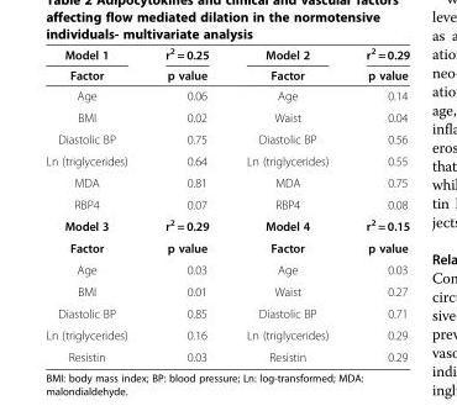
<table><thead><tr><td rowspan="2">Model 1 Factor</td><td rowspan="2">r<sup>2</sup> = 0.25 p value</td><td rowspan="2">Model 2 Factor</td><td rowspan="2">r<sup>2</sup> = 0.29 p value</td></tr><tr></tr></thead><tbody><tr><td>Age</td><td>0.06</td><td>Age</td><td>0.14</td></tr><tr><td>BMI</td><td>0.02</td><td>Waist</td><td>0.04</td></tr><tr><td>Diastolic BP</td><td>0.75</td><td>Diastolic BP</td><td>0.56</td></tr><tr><td>Ln (triglycerides)</td><td>0.64</td><td>Ln (triglycerides)</td><td>0.55</td></tr><tr><td>MDA</td><td>0.81</td><td>MDA</td><td>0.75</td></tr><tr><td>RBP4</td><td>0.07</td><td>RBP4</td><td>0.08</td></tr><tr><td>Model 3</td><td>r<sup>2</sup> = 0.29</td><td>Model 4</td><td>r<sup>2</sup> = 0.15</td></tr><tr><td>Factor</td><td>p value</td><td>Factor</td><td>p value</td></tr><tr><td>Age</td><td>0.03</td><td>Age</td><td>0.03</td></tr><tr><td>BMI</td><td>0.01</td><td>Waist</td><td>0.27</td></tr><tr><td>Diastolic BP</td><td>0.85</td><td>Diastolic BP</td><td>0.71</td></tr><tr><td>Ln (triglycerides)</td><td>0.16</td><td>Ln (triglycerides)</td><td>0.29</td></tr><tr><td>Resistin</td><td>0.03</td><td>Resistin</td><td>0.29</td></tr></tbody></table>